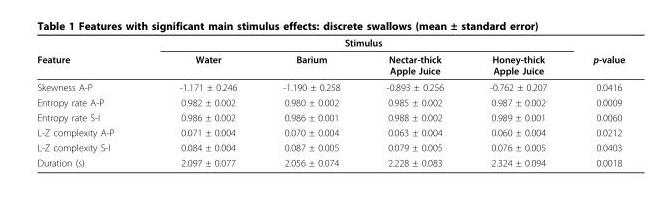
<table><thead><tr><td rowspan="2">Feature</td><td colspan="4">Stimulus</td><td rowspan="2">p-value</td></tr><tr><td>Water</td><td>Barium</td><td>Nectar-thick Apple Juice</td><td>Honey-thick Apple Juice</td></tr></thead><tbody><tr><td>Skewness A-P</td><td>-1.171 ± 0.246</td><td>-1.190 ± 0.258</td><td>-0.893 ± 0.256</td><td>-0.762 ± 0.207</td><td>0.0416</td></tr><tr><td>Entropy rate A-P</td><td>0.982 ± 0.002</td><td>0.980 ± 0.002</td><td>0.985 ± 0.002</td><td>0.987 ± 0.002</td><td>0.0009</td></tr><tr><td>Entropy rate S-I</td><td>0.986 ± 0.002</td><td>0.986 ± 0.001</td><td>0.988 ± 0.002</td><td>0.989 ± 0.001</td><td>0.0060</td></tr><tr><td>L-Z complexity A-P</td><td>0.071 ± 0.004</td><td>0.070 ± 0.004</td><td>0.063 ± 0.004</td><td>0.060 ± 0.004</td><td>0.0212</td></tr><tr><td>L-Z complexity S-I</td><td>0.084 ± 0.004</td><td>0.087 ± 0.005</td><td>0.079 ± 0.005</td><td>0.076 ± 0.005</td><td>0.0403</td></tr><tr><td>Duration (s)</td><td>2.097 ± 0.077</td><td>2.056 ± 0.074</td><td>2.228 ± 0.083</td><td>2.324 ± 0.094</td><td>0.0018</td></tr></tbody></table>